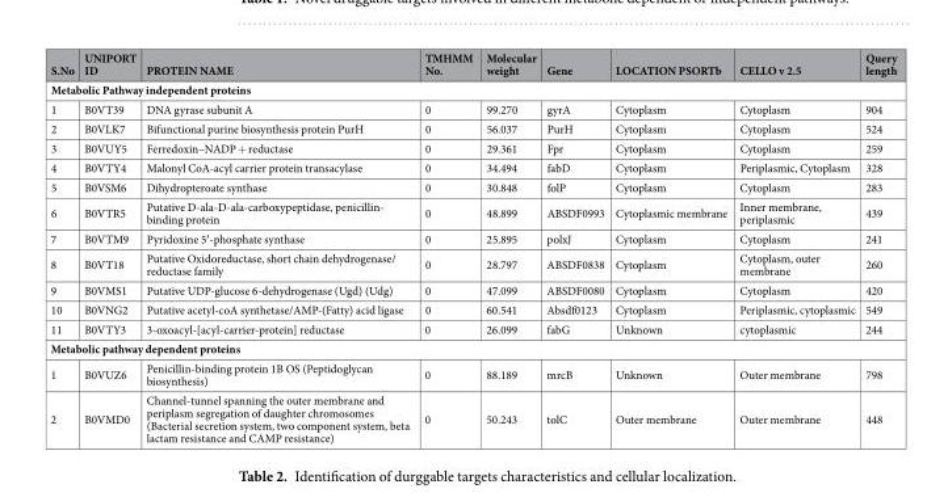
<table><thead><tr><td>S.No</td><td>UNIPORT ID</td><td>PROTEIN NAME</td><td>TMHMM No.</td><td>Molecular weight</td><td>Gene</td><td>LOCATION PSORTb</td><td>CELLO v 2.5</td><td>Query length</td></tr></thead><tbody><tr><td colspan="9">Metabolic Pathway independent proteins</td></tr><tr><td>1</td><td>B0VT39</td><td>DNA gyrase subunit A</td><td>0</td><td>99.270</td><td>gyrA</td><td>Cytoplasm</td><td>Cytoplasm</td><td>904</td></tr><tr><td>2</td><td>B0VLK7</td><td>Bifunctional purine biosynthesis protein PurH</td><td>0</td><td>56.037</td><td>PurH</td><td>Cytoplasm</td><td>Cytoplasm</td><td>524</td></tr><tr><td>3</td><td>B0VUY5</td><td>Ferredoxin–NADP + reductase</td><td>0</td><td>29.361</td><td>Fpr</td><td>Cytoplasm</td><td>Cytoplasm</td><td>259</td></tr><tr><td>4</td><td>B0VTY4</td><td>Malonyl CoA-acyl carrier protein transacylase</td><td>0</td><td>34.494</td><td>fabD</td><td>Cytoplasm</td><td>Periplasmic, Cytoplasm</td><td>328</td></tr><tr><td>5</td><td>B0VSM6</td><td>Dihydropteroate synthase</td><td>0</td><td>30.848</td><td>folP</td><td>Cytoplasm</td><td>Cytoplasm</td><td>283</td></tr><tr><td>6</td><td>B0VTR5</td><td>Putative D-ala-D-ala-carboxypeptidase, penicillin- binding protein</td><td>0</td><td>48.899</td><td>ABSDF0993</td><td>Cytoplasmic membrane</td><td>Inner membrane, periplasmic</td><td>439</td></tr><tr><td>7</td><td>B0VTM9</td><td>Pyridoxine 5′-phosphate synthase</td><td>0</td><td>25.895</td><td>polxJ</td><td>Cytoplasm</td><td>Cytoplasm</td><td>241</td></tr><tr><td>8</td><td>B0VT18</td><td>Putative Oxidoreductase, short chain dehydrogenase/ reductase family</td><td>0</td><td>28.797</td><td>ABSDF0838</td><td>Cytoplasm</td><td>Cytoplasm, outer membrane</td><td>260</td></tr><tr><td>9</td><td>B0VMS1</td><td>Putative UDP-glucose 6-dehydrogenase (Ugd) (Udg)</td><td>0</td><td>47.099</td><td>ABSDF0080</td><td>Cytoplasm</td><td>Cytoplasm</td><td>420</td></tr><tr><td>10</td><td>B0VNG2</td><td>Putative acetyl-coA synthetase/AMP-(Fatty) acid ligase</td><td>0</td><td>60.541</td><td>Absdf0123</td><td>Cytoplasm</td><td>Periplasmic, cytoplasmic</td><td>549</td></tr><tr><td>11</td><td>B0VTY3</td><td>3-oxoacyl-[acyl-carrier-protein] reductase</td><td>0</td><td>26.099</td><td>fabG</td><td>Unknown</td><td>cytoplasmic</td><td>244</td></tr><tr><td colspan="9">Metabolic pathway dependent proteins</td></tr><tr><td>1</td><td>B0VUZ6</td><td>Penicillin-binding protein 1B OS (Peptidoglycan biosynthesis)</td><td>0</td><td>88.189</td><td>mrcB</td><td>Unknown</td><td>Outer membrane</td><td>798</td></tr><tr><td>2</td><td>B0VMD0</td><td>Channel-tunnel spanning the outer membrane and periplasm segregation of daughter chromosomes (Bacterial secretion system, two component system, beta lactam resistance and CAMP resistance)</td><td>0</td><td>50.243</td><td>tolC</td><td>Outer membrane</td><td>Outer membrane</td><td>448</td></tr></tbody></table>